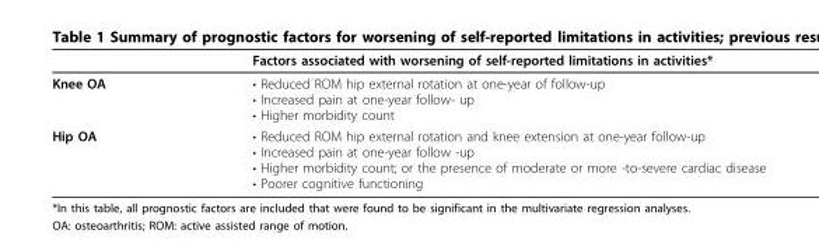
<table><thead><tr><td></td><td>Factors associated with worsening of self-reported limitations in activities*</td></tr></thead><tbody><tr><td>Knee OA</td><td>• Reduced ROM hip external rotation at one-year of follow-up • Increased pain at one-year follow- up • Higher morbidity count</td></tr><tr><td>Hip OA</td><td>• Reduced ROM hip external rotation and knee extension at one-year follow-up • Increased pain at one-year follow -up • Higher morbidity count; or the presence of moderate or more -to-severe cardiac disease • Poorer cognitive functioning</td></tr></tbody></table>